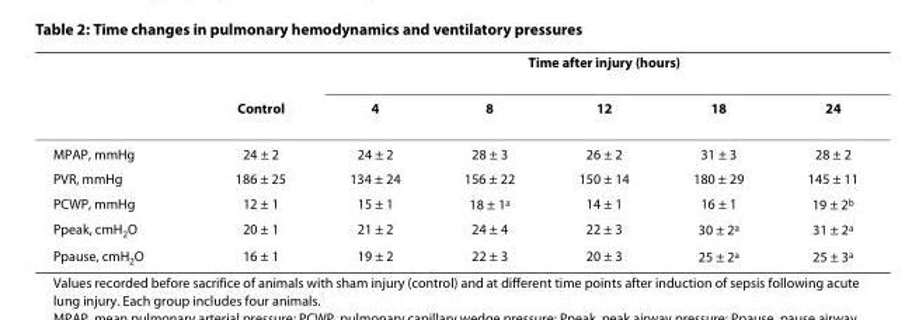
<table><thead><tr><td rowspan="2"></td><td rowspan="2">Control</td><td colspan="5">Time after injury (hours)</td></tr><tr><td>4</td><td>8</td><td>12</td><td>18</td><td>24</td></tr></thead><tbody><tr><td>MPAP, mmHg</td><td>24 ± 2</td><td>24 ± 2</td><td>28 ± 3</td><td>26 ± 2</td><td>31 ± 3</td><td>28 ± 2</td></tr><tr><td>PVR, mmHg</td><td>186 ± 25</td><td>134 ± 24</td><td>156 ± 22</td><td>150 ± 14</td><td>180 ± 29</td><td>145 ± 11</td></tr><tr><td>PCWP, mmHg</td><td>12 ± 1</td><td>15 ± 1</td><td>18 ± 1<sup>a</sup></td><td>14 ± 1</td><td>16 ± 1</td><td>19 ± 2<sup>b</sup></td></tr><tr><td>Ppeak, cmH<sub>2</sub>O</td><td>20 ± 1</td><td>21 ± 2</td><td>24 ± 4</td><td>22 ± 3</td><td>30 ± 2<sup>a</sup></td><td>31 ± 2<sup>a</sup></td></tr><tr><td>Ppause, cmH<sub>2</sub>O</td><td>16 ± 1</td><td>19 ± 2</td><td>22 ± 3</td><td>20 ± 3</td><td>25 ± 2<sup>a</sup></td><td>25 ± 3<sup>a</sup></td></tr></tbody></table>